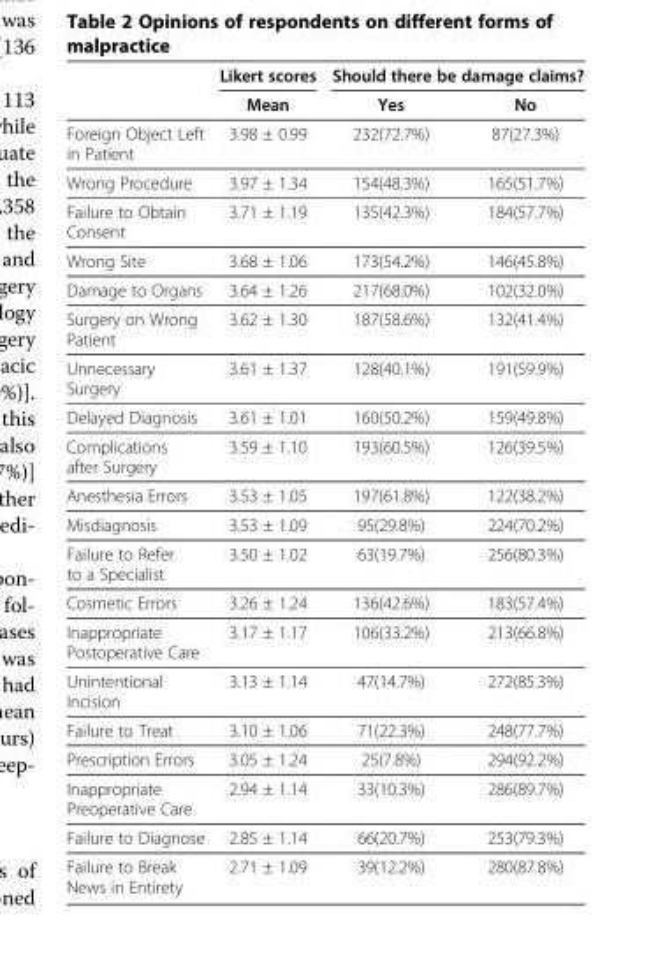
<table><thead><tr><td rowspan="2"></td><td rowspan="2">Likert scores Mean</td><td colspan="2">Should there be damage claims?</td></tr><tr><td>Yes</td><td>No</td></tr></thead><tbody><tr><td>Foreign Object Left in Patient</td><td>3.98 ± 0.99</td><td>232(72.7%)</td><td>87(27.3%)</td></tr><tr><td>Wrong Procedure</td><td>3.97 ± 1.34</td><td>154(48.3%)</td><td>165(51.7%)</td></tr><tr><td>Failure to Obtain Consent</td><td>3.71 ± 1.19</td><td>135(42.3%)</td><td>184(57.7%)</td></tr><tr><td>Wrong Site</td><td>3.68 ± 1.06</td><td>173(54.2%)</td><td>146(45.8%)</td></tr><tr><td>Damage to Organs</td><td>3.64 ± 1.26</td><td>217(68.0%)</td><td>102(32.0%)</td></tr><tr><td>Surgery on Wrong Patient</td><td>3.62 ± 1.30</td><td>187(58.6%)</td><td>132(41.4%)</td></tr><tr><td>Unnecessary Surgery</td><td>3.61 ± 1.37</td><td>128(40.1%)</td><td>191(59.9%)</td></tr><tr><td>Delayed Diagnosis</td><td>3.61 ± 1.01</td><td>160(50.2%)</td><td>159(49.8%)</td></tr><tr><td>Complications after Surgery</td><td>3.59 ± 1.10</td><td>193(60.5%)</td><td>126(39.5%)</td></tr><tr><td>Anesthesia Errors</td><td>3.53 ± 1.05</td><td>197(61.8%)</td><td>122(38.2%)</td></tr><tr><td>Misdiagnosis</td><td>3.53 ± 1.09</td><td>95(29.8%)</td><td>224(70.2%)</td></tr><tr><td>Failure to Refer to a Specialist</td><td>3.50 ± 1.02</td><td>63(19.7%)</td><td>256(80.3%)</td></tr><tr><td>Cosmetic Errors</td><td>3.26 ± 1.24</td><td>136(42.6%)</td><td>183(57.4%)</td></tr><tr><td>Inappropriate Postoperative Care</td><td>3.17 ± 1.17</td><td>106(33.2%)</td><td>213(66.8%)</td></tr><tr><td>Unintentional Incision</td><td>3.13 ± 1.14</td><td>47(14.7%)</td><td>272(85.3%)</td></tr><tr><td>Failure to Treat</td><td>3.10 ± 1.06</td><td>71(22.3%)</td><td>248(77.7%)</td></tr><tr><td>Prescription Errors</td><td>3.05 ± 1.24</td><td>25(7.8%)</td><td>294(92.2%)</td></tr><tr><td>Inappropriate Preoperative Care</td><td>2.94 ± 1.14</td><td>33(10.3%)</td><td>286(89.7%)</td></tr><tr><td>Failure to Diagnose</td><td>2.85 ± 1.14</td><td>66(20.7%)</td><td>253(79.3%)</td></tr><tr><td>Failure to Break News in Entirety</td><td>2.71 ± 1.09</td><td>39(12.2%)</td><td>280(87.8%)</td></tr></tbody></table>